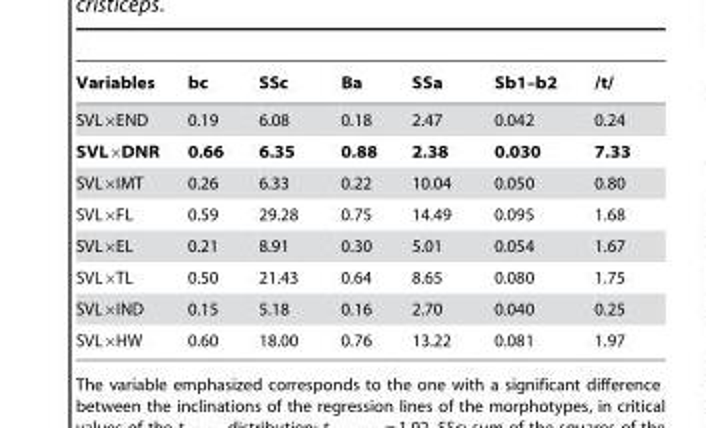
<table><thead><tr><td>Variables</td><td>bc</td><td>SSc</td><td>Ba</td><td>SSa</td><td>Sb1–b2</td><td>/t/</td></tr></thead><tbody><tr><td>SVL×END</td><td>0.19</td><td>6.08</td><td>0.18</td><td>2.47</td><td>0.042</td><td>0.24</td></tr><tr><td>SVL×DNR</td><td>0.66</td><td>6.35</td><td>0.88</td><td>2.38</td><td>0.030</td><td>7.33</td></tr><tr><td>SVL×IMT</td><td>0.26</td><td>6.33</td><td>0.22</td><td>10.04</td><td>0.050</td><td>0.80</td></tr><tr><td>SVL×FL</td><td>0.59</td><td>29.28</td><td>0.75</td><td>14.49</td><td>0.095</td><td>1.68</td></tr><tr><td>SVL×EL</td><td>0.21</td><td>8.91</td><td>0.30</td><td>5.01</td><td>0.054</td><td>1.67</td></tr><tr><td>SVL×TL</td><td>0.50</td><td>21.43</td><td>0.64</td><td>8.65</td><td>0.080</td><td>1.75</td></tr><tr><td>SVL×IND</td><td>0.15</td><td>5.18</td><td>0.16</td><td>2.70</td><td>0.040</td><td>0.25</td></tr><tr><td>SVL×HW</td><td>0.60</td><td>18.00</td><td>0.76</td><td>13.22</td><td>0.081</td><td>1.97</td></tr></tbody></table>